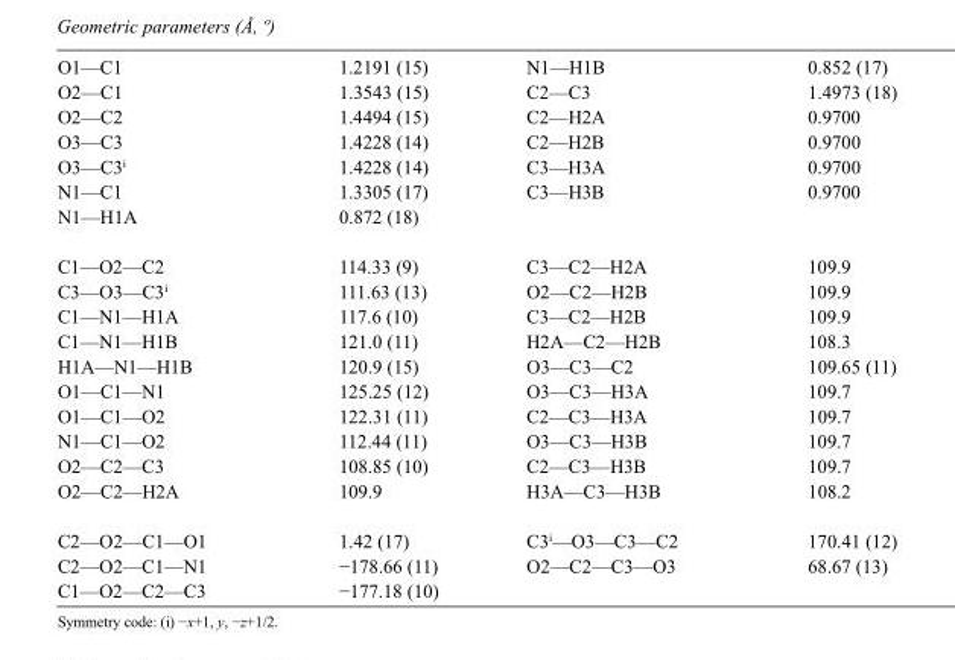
<table><tbody><tr><td>O1—C1</td><td>1.2191 (15)</td><td>N1—H1B</td><td>0.852 (17)</td></tr><tr><td>O2—C1</td><td>1.3543 (15)</td><td>C2—C3</td><td>1.4973 (18)</td></tr><tr><td>O2—C2</td><td>1.4494 (15)</td><td>C2—H2A</td><td>0.9700</td></tr><tr><td>O3—C3</td><td>1.4228 (14)</td><td>C2—H2B</td><td>0.9700</td></tr><tr><td>O3—C3<sup>i</sup></td><td>1.4228 (14)</td><td>C3—H3A</td><td>0.9700</td></tr><tr><td>N1—C1</td><td>1.3305 (17)</td><td>C3—H3B</td><td>0.9700</td></tr><tr><td>N1—H1A</td><td>0.872 (18)</td><td></td><td></td></tr><tr><td>C1—O2—C2</td><td>114.33 (9)</td><td>C3—C2—H2A</td><td>109.9</td></tr><tr><td>C3—O3—C3<sup>i</sup></td><td>111.63 (13)</td><td>O2—C2—H2B</td><td>109.9</td></tr><tr><td>C1—N1—H1A</td><td>117.6 (10)</td><td>C3—C2—H2B</td><td>109.9</td></tr><tr><td>C1—N1—H1B</td><td>121.0 (11)</td><td>H2A—C2—H2B</td><td>108.3</td></tr><tr><td>H1A—N1—H1B</td><td>120.9 (15)</td><td>O3—C3—C2</td><td>109.65 (11)</td></tr><tr><td>O1—C1—N1</td><td>125.25 (12)</td><td>O3—C3—H3A</td><td>109.7</td></tr><tr><td>O1—C1—O2</td><td>122.31 (11)</td><td>C2—C3—H3A</td><td>109.7</td></tr><tr><td>N1—C1—O2</td><td>112.44 (11)</td><td>O3—C3—H3B</td><td>109.7</td></tr><tr><td>O2—C2—C3</td><td>108.85 (10)</td><td>C2—C3—H3B</td><td>109.7</td></tr><tr><td>O2—C2—H2A</td><td>109.9</td><td>H3A—C3—H3B</td><td>108.2</td></tr><tr><td>C2—O2—C1—O1</td><td>1.42 (17)</td><td>C3<sup>i</sup>—O3—C3—C2</td><td>170.41 (12)</td></tr><tr><td>C2—O2—C1—N1</td><td>−178.66 (11)</td><td>O2—C2—C3—O3</td><td>68.67 (13)</td></tr><tr><td>C1—O2—C2—C3</td><td>−177.18 (10)</td><td></td><td></td></tr></tbody></table>